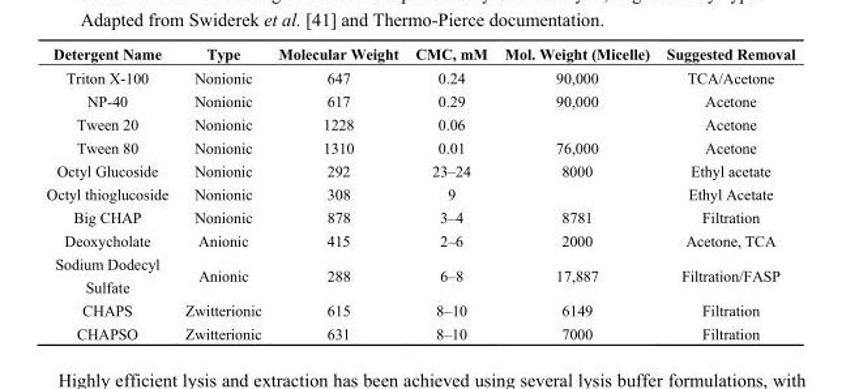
<table><thead><tr><td>Detergent Name</td><td>Type</td><td>Molecular Weight</td><td>CMC, mM</td><td>Mol. Weight (Micelle)</td><td>Suggested Removal</td></tr></thead><tbody><tr><td>Triton X-100</td><td>Nonionic</td><td>647</td><td>0.24</td><td>90,000</td><td>TCA/Acetone</td></tr><tr><td>NP-40</td><td>Nonionic</td><td>617</td><td>0.29</td><td>90,000</td><td>Acetone</td></tr><tr><td>Tween 20</td><td>Nonionic</td><td>1228</td><td>0.06</td><td></td><td>Acetone</td></tr><tr><td>Tween 80</td><td>Nonionic</td><td>1310</td><td>0.01</td><td>76,000</td><td>Acetone</td></tr><tr><td>Octyl Glucoside</td><td>Nonionic</td><td>292</td><td>23–24</td><td>8000</td><td>Ethyl acetate</td></tr><tr><td>Octyl thioglucoside</td><td>Nonionic</td><td>308</td><td>9</td><td></td><td>Ethyl Acetate</td></tr><tr><td>Big CHAP</td><td>Nonionic</td><td>878</td><td>3–4</td><td>8781</td><td>Filtration</td></tr><tr><td>Deoxycholate</td><td>Anionic</td><td>415</td><td>2–6</td><td>2000</td><td>Acetone, TCA</td></tr><tr><td>Sodium Dodecyl Sulfate</td><td>Anionic</td><td>288</td><td>6–8</td><td>17,887</td><td>Filtration/FASP</td></tr><tr><td>CHAPS</td><td>Zwitterionic</td><td>615</td><td>8–10</td><td>6149</td><td>Filtration</td></tr><tr><td>CHAPSO</td><td>Zwitterionic</td><td>631</td><td>8–10</td><td>7000</td><td>Filtration</td></tr></tbody></table>